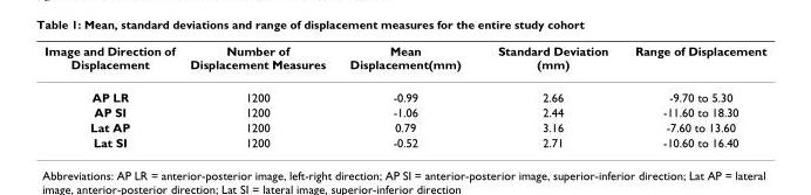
<table><thead><tr><td>Image and Direction of Displacement</td><td>Number of Displacement Measures</td><td>Mean Displacement(mm)</td><td>Standard Deviation (mm)</td><td>Range of Displacement</td></tr></thead><tbody><tr><td>AP LR</td><td>1200</td><td>-0.99</td><td>2.66</td><td>-9.70 to 5.30</td></tr><tr><td>AP SI</td><td>1200</td><td>-1.06</td><td>2.44</td><td>-11.60 to 18.30</td></tr><tr><td>Lat AP</td><td>1200</td><td>0.79</td><td>3.16</td><td>-7.60 to 13.60</td></tr><tr><td>Lat SI</td><td>1200</td><td>-0.52</td><td>2.71</td><td>-10.60 to 16.40</td></tr></tbody></table>